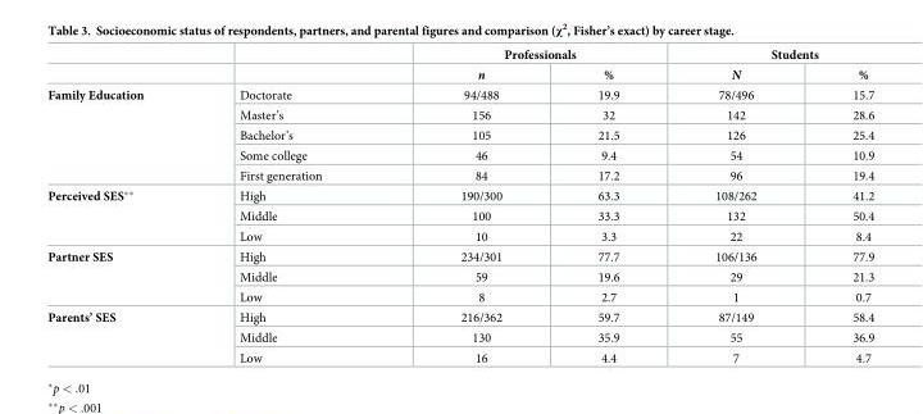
<table><thead><tr><td rowspan="2"></td><td rowspan="2"></td><td colspan="2">Professionals</td><td colspan="2">Students</td></tr><tr><td>n</td><td>%</td><td>N</td><td>%</td></tr></thead><tbody><tr><td rowspan="5">Family Education</td><td>Doctorate</td><td>94/488</td><td>19.9</td><td>78/496</td><td>15.7</td></tr><tr><td>Master’s</td><td>156</td><td>32</td><td>142</td><td>28.6</td></tr><tr><td>Bachelor’s</td><td>105</td><td>21.5</td><td>126</td><td>25.4</td></tr><tr><td>Some college</td><td>46</td><td>9.4</td><td>54</td><td>10.9</td></tr><tr><td>First generation</td><td>84</td><td>17.2</td><td>96</td><td>19.4</td></tr><tr><td rowspan="3">Perceived SES**</td><td>High</td><td>190/300</td><td>63.3</td><td>108/262</td><td>41.2</td></tr><tr><td>Middle</td><td>100</td><td>33.3</td><td>132</td><td>50.4</td></tr><tr><td>Low</td><td>10</td><td>3.3</td><td>22</td><td>8.4</td></tr><tr><td rowspan="3">Partner SES</td><td>High</td><td>234/301</td><td>77.7</td><td>106/136</td><td>77.9</td></tr><tr><td>Middle</td><td>59</td><td>19.6</td><td>29</td><td>21.3</td></tr><tr><td>Low</td><td>8</td><td>2.7</td><td>1</td><td>0.7</td></tr><tr><td rowspan="3">Parents’ SES</td><td>High</td><td>216/362</td><td>59.7</td><td>87/149</td><td>58.4</td></tr><tr><td>Middle</td><td>130</td><td>35.9</td><td>55</td><td>36.9</td></tr><tr><td>Low</td><td>16</td><td>4.4</td><td>7</td><td>4.7</td></tr></tbody></table>